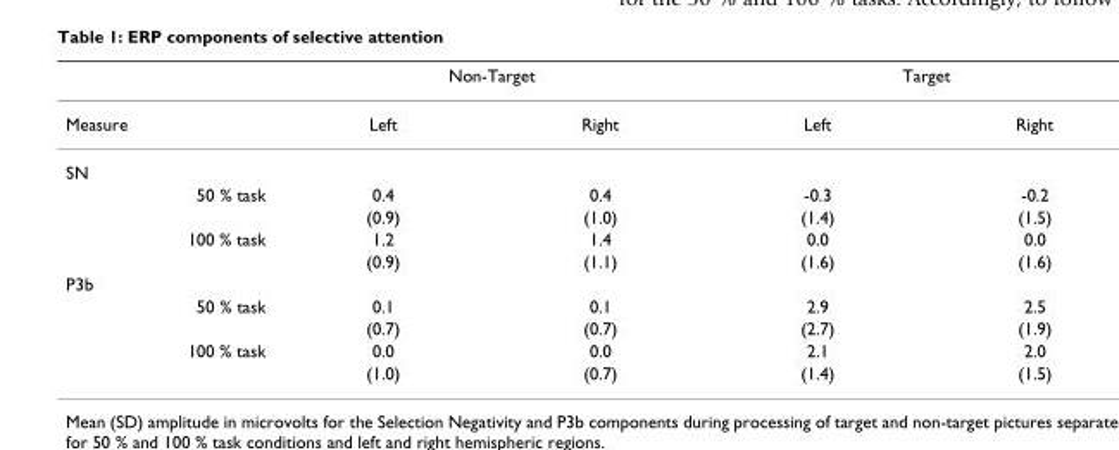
<table><thead><tr><td rowspan="2">Measure</td><td colspan="2">Non-Target</td><td colspan="2">Target</td></tr><tr><td>Left</td><td>Right</td><td>Left</td><td>Right</td></tr></thead><tbody><tr><td colspan="5">SN</td></tr><tr><td rowspan="2">50 % task</td><td>0.4</td><td>0.4</td><td>-0.3</td><td>-0.2</td></tr><tr><td>(0.9)</td><td>(1.0)</td><td>(1.4)</td><td>(1.5)</td></tr><tr><td rowspan="2">100 % task</td><td>1.2</td><td>1.4</td><td>0.0</td><td>0.0</td></tr><tr><td>(0.9)</td><td>(1.1)</td><td>(1.6)</td><td>(1.6)</td></tr><tr><td colspan="5">P3b</td></tr><tr><td rowspan="2">50 % task</td><td>0.1</td><td>0.1</td><td>2.9</td><td>2.5</td></tr><tr><td>(0.7)</td><td>(0.7)</td><td>(2.7)</td><td>(1.9)</td></tr><tr><td rowspan="2">100 % task</td><td>0.0</td><td>0.0</td><td>2.1</td><td>2.0</td></tr><tr><td>(1.0)</td><td>(0.7)</td><td>(1.4)</td><td>(1.5)</td></tr></tbody></table>